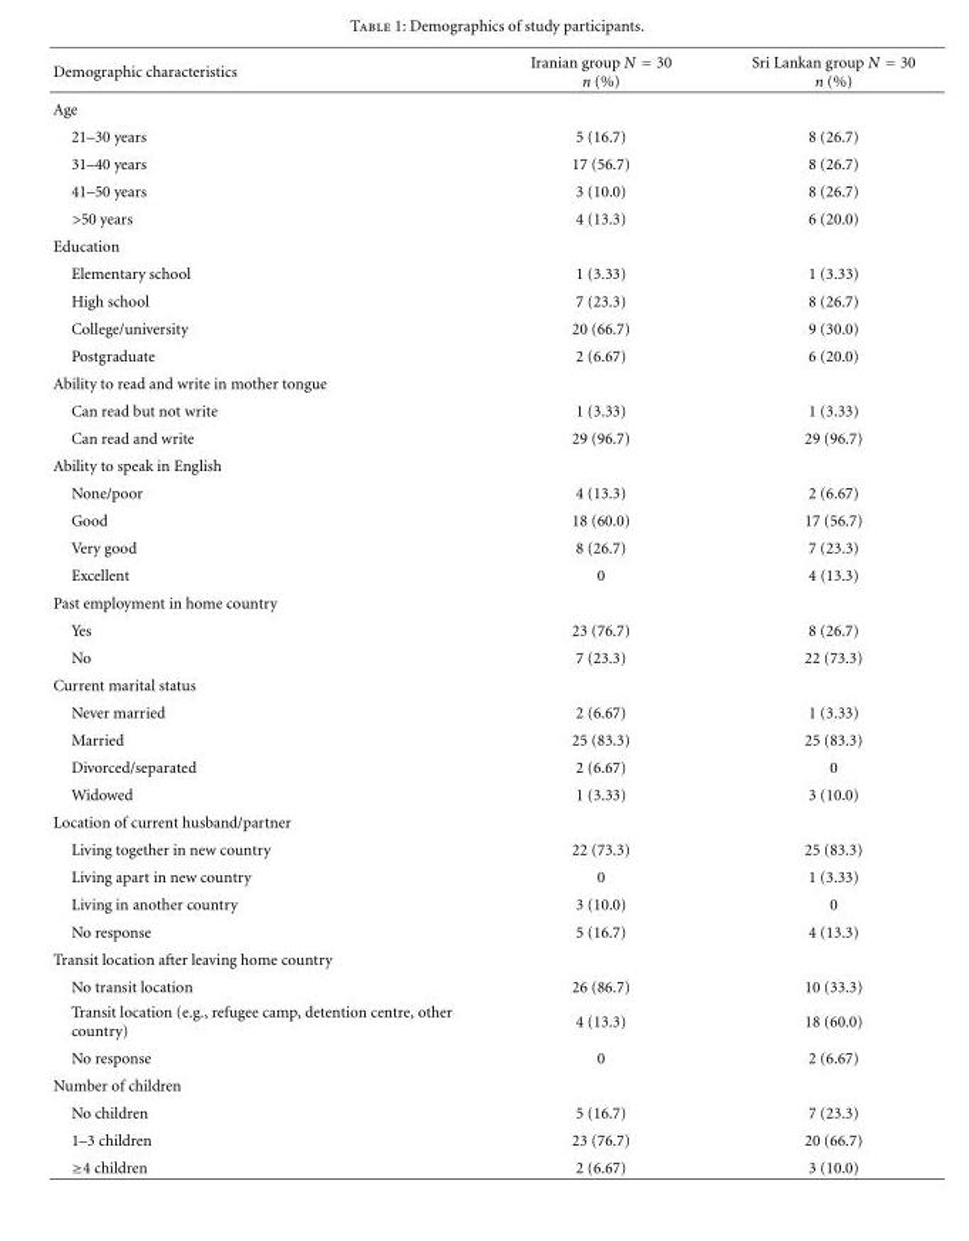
<table><thead><tr><td>Demographic characteristics</td><td>Iranian group N = 30 n (%)</td><td>Sri Lankan group N = 30 n (%)</td></tr></thead><tbody><tr><td colspan="3">Age</td></tr><tr><td>21–30 years</td><td>5 (16.7)</td><td>8 (26.7)</td></tr><tr><td>31–40 years</td><td>17 (56.7)</td><td>8 (26.7)</td></tr><tr><td>41–50 years</td><td>3 (10.0)</td><td>8 (26.7)</td></tr><tr><td>&gt;50 years</td><td>4 (13.3)</td><td>6 (20.0)</td></tr><tr><td colspan="3">Education</td></tr><tr><td>Elementary school</td><td>1 (3.33)</td><td>1 (3.33)</td></tr><tr><td>High school</td><td>7 (23.3)</td><td>8 (26.7)</td></tr><tr><td>College/university</td><td>20 (66.7)</td><td>9 (30.0)</td></tr><tr><td>Postgraduate</td><td>2 (6.67)</td><td>6 (20.0)</td></tr><tr><td colspan="3">Ability to read and write in mother tongue</td></tr><tr><td>Can read but not write</td><td>1 (3.33)</td><td>1 (3.33)</td></tr><tr><td>Can read and write</td><td>29 (96.7)</td><td>29 (96.7)</td></tr><tr><td colspan="3">Ability to speak in English</td></tr><tr><td>None/poor</td><td>4 (13.3)</td><td>2 (6.67)</td></tr><tr><td>Good</td><td>18 (60.0)</td><td>17 (56.7)</td></tr><tr><td>Very good</td><td>8 (26.7)</td><td>7 (23.3)</td></tr><tr><td>Excellent</td><td>0</td><td>4 (13.3)</td></tr><tr><td colspan="3">Past employment in home country</td></tr><tr><td>Yes</td><td>23 (76.7)</td><td>8 (26.7)</td></tr><tr><td>No</td><td>7 (23.3)</td><td>22 (73.3)</td></tr><tr><td colspan="3">Current marital status</td></tr><tr><td>Never married</td><td>2 (6.67)</td><td>1 (3.33)</td></tr><tr><td>Married</td><td>25 (83.3)</td><td>25 (83.3)</td></tr><tr><td>Divorced/separated</td><td>2 (6.67)</td><td>0</td></tr><tr><td>Widowed</td><td>1 (3.33)</td><td>3 (10.0)</td></tr><tr><td colspan="3">Location of current husband/partner</td></tr><tr><td>Living together in new country</td><td>22 (73.3)</td><td>25 (83.3)</td></tr><tr><td>Living apart in new country</td><td>0</td><td>1 (3.33)</td></tr><tr><td>Living in another country</td><td>3 (10.0)</td><td>0</td></tr><tr><td>No response</td><td>5 (16.7)</td><td>4 (13.3)</td></tr><tr><td colspan="3">Transit location after leaving home country</td></tr><tr><td>No transit location</td><td>26 (86.7)</td><td>10 (33.3)</td></tr><tr><td>Transit location (e.g., refugee camp, detention centre, other country)</td><td>4 (13.3)</td><td>18 (60.0)</td></tr><tr><td>No response</td><td>0</td><td>2 (6.67)</td></tr><tr><td colspan="3">Number of children</td></tr><tr><td>No children</td><td>5 (16.7)</td><td>7 (23.3)</td></tr><tr><td>1–3 children</td><td>23 (76.7)</td><td>20 (66.7)</td></tr><tr><td>≥4 children</td><td>2 (6.67)</td><td>3 (10.0)</td></tr></tbody></table>